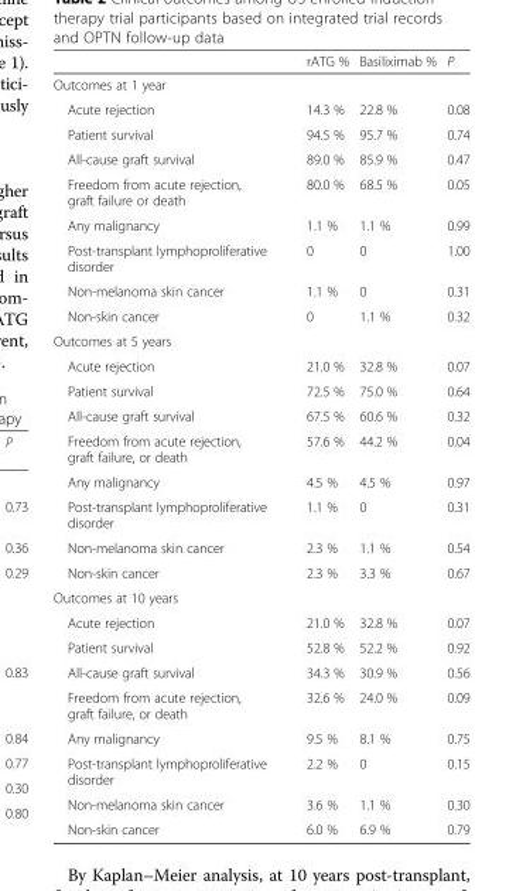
<table><thead><tr><td></td><td>rATG %</td><td>Basiliximab %</td><td>P</td></tr></thead><tbody><tr><td colspan="4">Outcomes at 1 year</td></tr><tr><td>Acute rejection</td><td>14.3 %</td><td>22.8 %</td><td>0.08</td></tr><tr><td>Patient survival</td><td>94.5 %</td><td>95.7 %</td><td>0.74</td></tr><tr><td>All-cause graft survival</td><td>89.0 %</td><td>85.9 %</td><td>0.47</td></tr><tr><td>Freedom from acute rejection, graft failure or death</td><td>80.0 %</td><td>68.5 %</td><td>0.05</td></tr><tr><td>Any malignancy</td><td>1.1 %</td><td>1.1 %</td><td>0.99</td></tr><tr><td>Post-transplant lymphoproliferative disorder</td><td>0</td><td>0</td><td>1.00</td></tr><tr><td>Non-melanoma skin cancer</td><td>1.1 %</td><td>0</td><td>0.31</td></tr><tr><td>Non-skin cancer</td><td>0</td><td>1.1 %</td><td>0.32</td></tr><tr><td colspan="4">Outcomes at 5 years</td></tr><tr><td>Acute rejection</td><td>21.0 %</td><td>32.8 %</td><td>0.07</td></tr><tr><td>Patient survival</td><td>72.5 %</td><td>75.0 %</td><td>0.64</td></tr><tr><td>All-cause graft survival</td><td>67.5 %</td><td>60.6 %</td><td>0.32</td></tr><tr><td>Freedom from acute rejection, graft failure, or death</td><td>57.6 %</td><td>44.2 %</td><td>0.04</td></tr><tr><td>Any malignancy</td><td>4.5 %</td><td>4.5 %</td><td>0.97</td></tr><tr><td>Post-transplant lymphoproliferative disorder</td><td>1.1 %</td><td>0</td><td>0.31</td></tr><tr><td>Non-melanoma skin cancer</td><td>2.3 %</td><td>1.1 %</td><td>0.54</td></tr><tr><td>Non-skin cancer</td><td>2.3 %</td><td>3.3 %</td><td>0.67</td></tr><tr><td colspan="4">Outcomes at 10 years</td></tr><tr><td>Acute rejection</td><td>21.0 %</td><td>32.8 %</td><td>0.07</td></tr><tr><td>Patient survival</td><td>52.8 %</td><td>52.2 %</td><td>0.92</td></tr><tr><td>All-cause graft survival</td><td>34.3 %</td><td>30.9 %</td><td>0.56</td></tr><tr><td>Freedom from acute rejection, graft failure, or death</td><td>32.6 %</td><td>24.0 %</td><td>0.09</td></tr><tr><td>Any malignancy</td><td>9.5 %</td><td>8.1 %</td><td>0.75</td></tr><tr><td>Post-transplant lymphoproliferative disorder</td><td>2.2 %</td><td>0</td><td>0.15</td></tr><tr><td>Non-melanoma skin cancer</td><td>3.6 %</td><td>1.1 %</td><td>0.30</td></tr><tr><td>Non-skin cancer</td><td>6.0 %</td><td>6.9 %</td><td>0.79</td></tr></tbody></table>